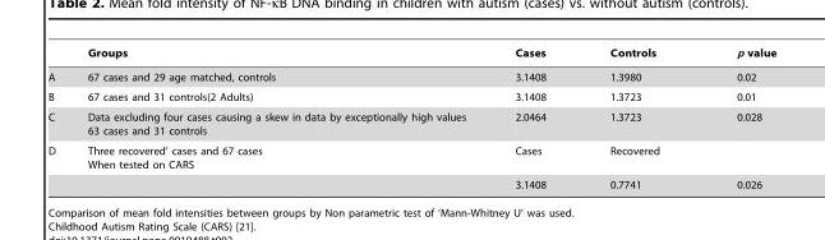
<table><thead><tr><td></td><td>Groups</td><td>Cases</td><td>Controls</td><td>p value</td></tr></thead><tbody><tr><td>A</td><td>67 cases and 29 age matched, controls</td><td>3.1408</td><td>1.3980</td><td>0.02</td></tr><tr><td>B</td><td>67 cases and 31 controls(2 Adults)</td><td>3.1408</td><td>1.3723</td><td>0.01</td></tr><tr><td>C</td><td>Data excluding four cases causing a skew in data by exceptionally high values 63 cases and 31 controls</td><td>2.0464</td><td>1.3723</td><td>0.028</td></tr><tr><td rowspan="2">D</td><td>Three recovered’ cases and 67 cases When tested on CARS</td><td>Cases</td><td>Recovered</td><td></td></tr><tr><td></td><td>3.1408</td><td>0.7741</td><td>0.026</td></tr></tbody></table>